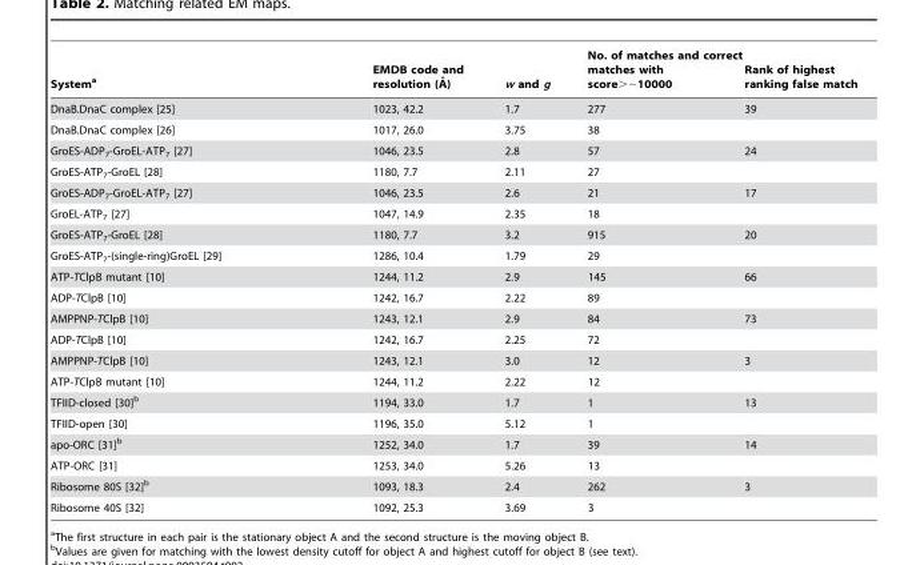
<table><thead><tr><td>System<sup>a</sup></td><td>EMDB code and resolution (A˚ )</td><td>w and g</td><td>No. of matches and correct matches with score&gt;−10000</td><td>Rank of highest ranking false match</td></tr></thead><tbody><tr><td>DnaB.DnaC complex [25]</td><td>1023, 42.2</td><td>1.7</td><td>277</td><td>39</td></tr><tr><td>DnaB.DnaC complex [26]</td><td>1017, 26.0</td><td>3.75</td><td>38</td><td></td></tr><tr><td>GroES-ADP<sub>7</sub>-GroEL-ATP<sub>7</sub> [27]</td><td>1046, 23.5</td><td>2.8</td><td>57</td><td>24</td></tr><tr><td>GroES-ATP<sub>7</sub>-GroEL [28]</td><td>1180, 7.7</td><td>2.11</td><td>27</td><td></td></tr><tr><td>GroES-ADP<sub>7</sub>-GroEL-ATP<sub>7</sub> [27]</td><td>1046, 23.5</td><td>2.6</td><td>21</td><td>17</td></tr><tr><td>GroEL-ATP<sub>7</sub> [27]</td><td>1047, 14.9</td><td>2.35</td><td>18</td><td></td></tr><tr><td>GroES-ATP<sub>7</sub>-GroEL [28]</td><td>1180, 7.7</td><td>3.2</td><td>915</td><td>20</td></tr><tr><td>GroES-ATP<sub>7</sub>-(single-ring)GroEL [29]</td><td>1286, 10.4</td><td>1.79</td><td>29</td><td></td></tr><tr><td>ATP-TClpB mutant [10]</td><td>1244, 11.2</td><td>2.9</td><td>145</td><td>66</td></tr><tr><td>ADP-TClpB [10]</td><td>1242, 16.7</td><td>2.22</td><td>89</td><td></td></tr><tr><td>AMPPNP-TClpB [10]</td><td>1243, 12.1</td><td>2.9</td><td>84</td><td>73</td></tr><tr><td>ADP-TClpB [10]</td><td>1242, 16.7</td><td>2.25</td><td>72</td><td></td></tr><tr><td>AMPPNP-TClpB [10]</td><td>1243, 12.1</td><td>3.0</td><td>12</td><td>3</td></tr><tr><td>ATP-TClpB mutant [10]</td><td>1244, 11.2</td><td>2.22</td><td>12</td><td></td></tr><tr><td>TFIID-closed [30]b</td><td>1194, 33.0</td><td>1.7</td><td>1</td><td>13</td></tr><tr><td>TFIID-open [30]</td><td>1196, 35.0</td><td>5.12</td><td>1</td><td></td></tr><tr><td>apo-ORC [31]b</td><td>1252, 34.0</td><td>1.7</td><td>39</td><td>14</td></tr><tr><td>ATP-ORC [31]</td><td>1253, 34.0</td><td>5.26</td><td>13</td><td></td></tr><tr><td>Ribosome 80S [32]b</td><td>1093, 18.3</td><td>2.4</td><td>262</td><td>3</td></tr><tr><td>Ribosome 40S [32]</td><td>1092, 25.3</td><td>3.69</td><td>3</td><td></td></tr></tbody></table>